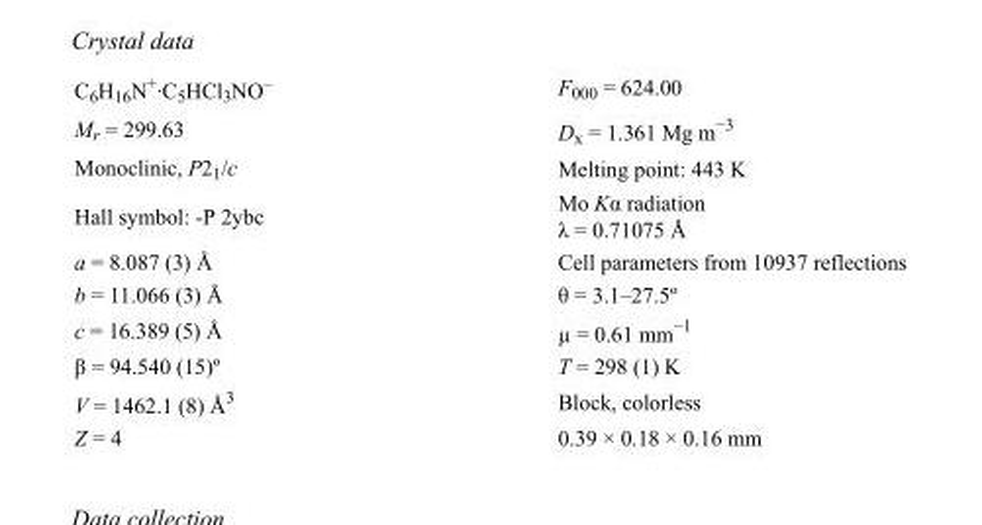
<table><tbody><tr><td>C<sub>6</sub>H<sub>16</sub>N<sup>+</sup>·C<sub>5</sub>HCl<sub>3</sub>NO<sup>–</sup></td><td>F<sub>000</sub> = 624.00</td></tr><tr><td>M<sub>r</sub> = 299.63</td><td>D<sub>x</sub> = 1.361 Mg m<sup>−3</sup></td></tr><tr><td>Monoclinic, P2<sub>1</sub>/c</td><td>Melting point: 443 K</td></tr><tr><td>Hall symbol: -P 2ybc</td><td>Mo Kα radiation λ = 0.71075 Å</td></tr><tr><td>a = 8.087 (3) Å</td><td>Cell parameters from 10937 reflections</td></tr><tr><td>b = 11.066 (3) Å</td><td>θ = 3.1–27.5º</td></tr><tr><td>c = 16.389 (5) Å</td><td>µ = 0.61 mm<sup>−1</sup></td></tr><tr><td>β = 94.540 (15)º</td><td>T = 298 (1) K</td></tr><tr><td>V = 1462.1 (8) Å<sup>3</sup></td><td>Block, colorless</td></tr><tr><td>Z = 4</td><td>0.39 × 0.18 × 0.16 mm</td></tr></tbody></table>